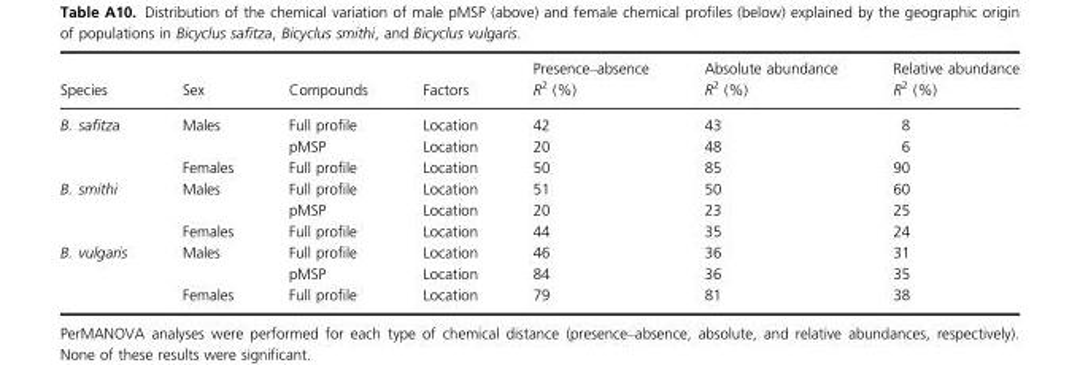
<table><thead><tr><td rowspan="2">Species</td><td rowspan="2">Sex</td><td rowspan="2">Compounds</td><td rowspan="2">Factors</td><td rowspan="2">Presence–absence R<sup>2</sup> (%)</td><td rowspan="2">Absolute abundance R<sup>2</sup> (%)</td><td rowspan="2">Relative abundance R<sup>2</sup> (%)</td></tr><tr></tr></thead><tbody><tr><td rowspan="3">B. safitza</td><td rowspan="2">Males</td><td>Full profile</td><td>Location</td><td>42</td><td>43</td><td>8</td></tr><tr><td>pMSP</td><td>Location</td><td>20</td><td>48</td><td>6</td></tr><tr><td>Females</td><td>Full profile</td><td>Location</td><td>50</td><td>85</td><td>90</td></tr><tr><td rowspan="3">B. smithi</td><td rowspan="2">Males</td><td>Full profile</td><td>Location</td><td>51</td><td>50</td><td>60</td></tr><tr><td>pMSP</td><td>Location</td><td>20</td><td>23</td><td>25</td></tr><tr><td>Females</td><td>Full profile</td><td>Location</td><td>44</td><td>35</td><td>24</td></tr><tr><td rowspan="3">B. vulgaris</td><td rowspan="2">Males</td><td>Full profile</td><td>Location</td><td>46</td><td>36</td><td>31</td></tr><tr><td>pMSP</td><td>Location</td><td>84</td><td>36</td><td>35</td></tr><tr><td>Females</td><td>Full profile</td><td>Location</td><td>79</td><td>81</td><td>38</td></tr></tbody></table>